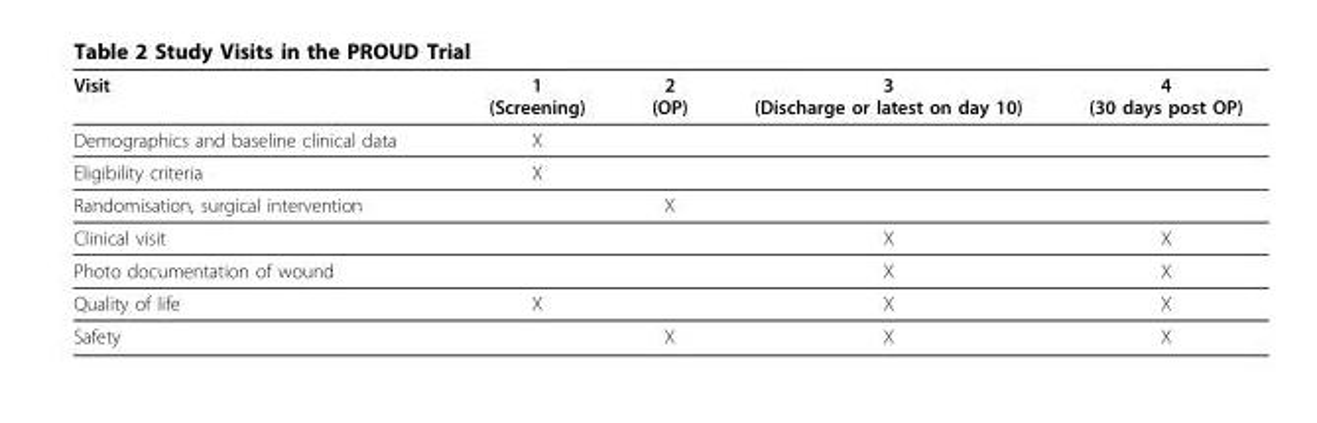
<table><thead><tr><td>Visit</td><td>1 (Screening)</td><td>2 (OP)</td><td>3 (Discharge or latest on day 10)</td><td>4 (30 days post OP)</td></tr></thead><tbody><tr><td>Demographics and baseline clinical data</td><td>X</td><td></td><td></td><td></td></tr><tr><td>Eligibility criteria</td><td>X</td><td></td><td></td><td></td></tr><tr><td>Randomisation, surgical intervention</td><td></td><td>X</td><td></td><td></td></tr><tr><td>Clinical visit</td><td></td><td></td><td>X</td><td>X</td></tr><tr><td>Photo documentation of wound</td><td></td><td></td><td>X</td><td>X</td></tr><tr><td>Quality of life</td><td>X</td><td></td><td>X</td><td>X</td></tr><tr><td>Safety</td><td></td><td>X</td><td>X</td><td>X</td></tr></tbody></table>